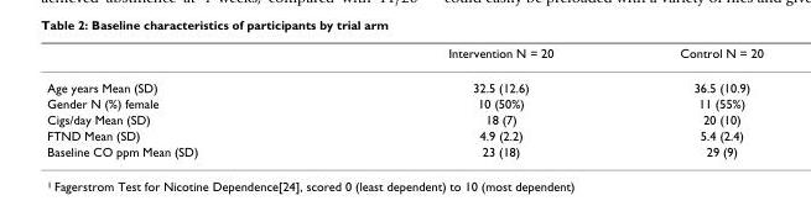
<table><thead><tr><td></td><td>Intervention N = 20</td><td>Control N = 20</td></tr></thead><tbody><tr><td>Age years Mean (SD)</td><td>32.5 (12.6)</td><td>36.5 (10.9)</td></tr><tr><td>Gender N (%) female</td><td>10 (50%)</td><td>11 (55%)</td></tr><tr><td>Cigs/day Mean (SD)</td><td>18 (7)</td><td>20 (10)</td></tr><tr><td>FTND Mean (SD)</td><td>4.9 (2.2)</td><td>5.4 (2.4)</td></tr><tr><td>Baseline CO ppm Mean (SD)</td><td>23 (18)</td><td>29 (9)</td></tr></tbody></table>